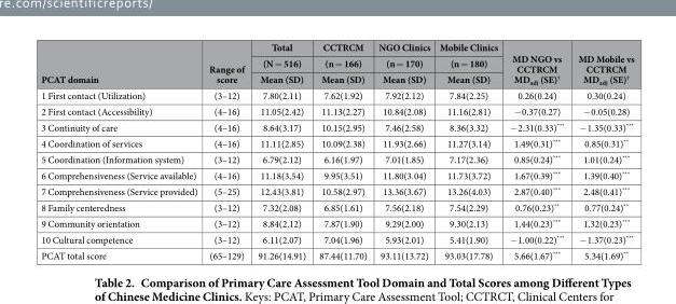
<table><thead><tr><td rowspan="3">PCAT domain</td><td rowspan="3">Range of score</td><td rowspan="3">Total (N = 516) Mean (SD)</td><td rowspan="3">CCTRCM (n = 166) Mean (SD)</td><td rowspan="3">NGO Clinics (n = 170) Mean (SD)</td><td rowspan="3">Mobile Clinics (n = 180) Mean (SD)</td><td rowspan="3">MD NGO vs CCTRCM MD<sub>adj</sub> (SE)<sup>†</sup></td><td rowspan="3">MD Mobile vs CCTRCM MD<sub>adj</sub> (SE)<sup>†</sup></td></tr><tr></tr><tr></tr></thead><tbody><tr><td>1 First contact (Utilization)</td><td>(3–12)</td><td>7.80(2.11)</td><td>7.62(1.92)</td><td>7.92(2.12)</td><td>7.84(2.25)</td><td>0.26(0.24)</td><td>0.30(0.24)</td></tr><tr><td>2 First contact (Accessibility)</td><td>(4–16)</td><td>11.05(2.42)</td><td>11.13(2.27)</td><td>10.84(2.08)</td><td>11.16(2.81)</td><td>− 0.37(0.27)</td><td>− 0.05(0.28)</td></tr><tr><td>3 Continuity of care</td><td>(4–16)</td><td>8.64(3.17)</td><td>10.15(2.95)</td><td>7.46(2.58)</td><td>8.36(3.32)</td><td>− 2.31(0.33)***</td><td>− 1.35(0.33)***</td></tr><tr><td>4 Coordination of services</td><td>(4–16)</td><td>11.11(2.85)</td><td>10.09(2.38)</td><td>11.93(2.66)</td><td>11.27(3.14)</td><td>1.49(0.31)***</td><td>0.85(0.31)**</td></tr><tr><td>5 Coordination (Information system)</td><td>(3–12)</td><td>6.79(2.12)</td><td>6.16(1.97)</td><td>7.01(1.85)</td><td>7.17(2.36)</td><td>0.85(0.24)***</td><td>1.01(0.24)***</td></tr><tr><td>6 Comprehensiveness (Service available)</td><td>(4–16)</td><td>11.18(3.54)</td><td>9.95(3.51)</td><td>11.80(3.04)</td><td>11.73(3.72)</td><td>1.67(0.39)***</td><td>1.39(0.40)***</td></tr><tr><td>7 Comprehensiveness (Service provided)</td><td>(5–25)</td><td>12.43(3.81)</td><td>10.58(2.97)</td><td>13.36(3.67)</td><td>13.26(4.03)</td><td>2.87(0.40)***</td><td>2.48(0.41)***</td></tr><tr><td>8 Family centeredness</td><td>(3–12)</td><td>7.32(2.08)</td><td>6.85(1.61)</td><td>7.56(2.18)</td><td>7.54(2.29)</td><td>0.76(0.23)**</td><td>0.77(0.24)**</td></tr><tr><td>9 Community orientation</td><td>(3–12)</td><td>8.84(2.12)</td><td>7.87(1.90)</td><td>9.29(2.00)</td><td>9.30(2.13)</td><td>1.44(0.23)***</td><td>1.32(0.23)***</td></tr><tr><td>10 Cultural competence</td><td>(3–12)</td><td>6.11(2.07)</td><td>7.04(1.96)</td><td>5.93(2.01)</td><td>5.41(1.90)</td><td>− 1.00(0.22)***</td><td>− 1.37(0.23)***</td></tr><tr><td>PCAT total score</td><td>(65–129)</td><td>91.26(14.91)</td><td>87.44(11.70)</td><td>93.11(13.72)</td><td>93.03(17.78)</td><td>5.66(1.67)***</td><td>5.34(1.69)**</td></tr></tbody></table>